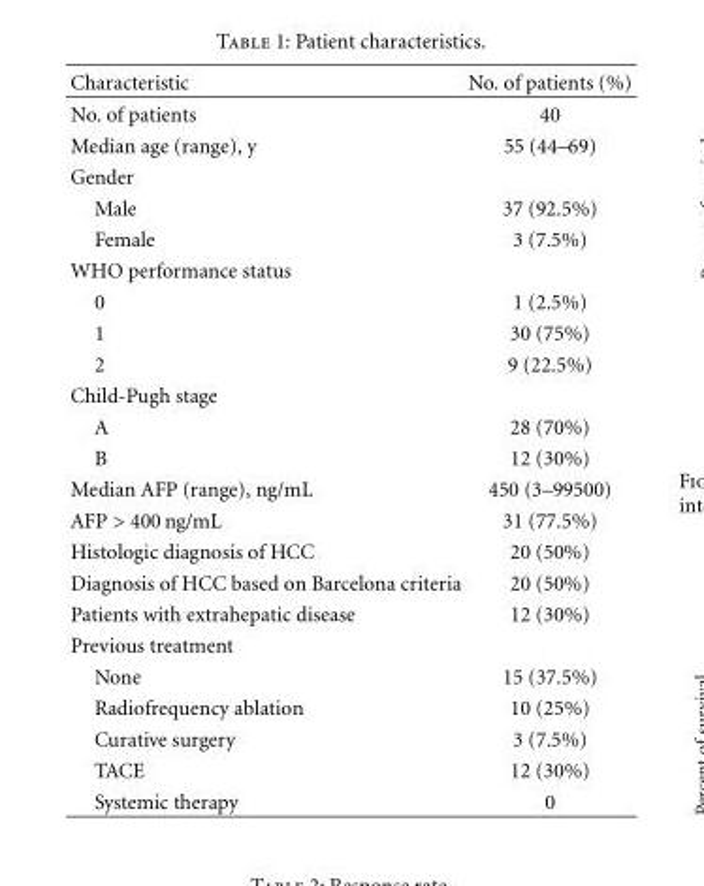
<table><thead><tr><td>Characteristic</td><td>No. of patients (%)</td></tr></thead><tbody><tr><td>No. of patients</td><td>40</td></tr><tr><td>Median age (range), y</td><td>55 (44–69)</td></tr><tr><td colspan="2">Gender</td></tr><tr><td>Male</td><td>37 (92.5%)</td></tr><tr><td>Female</td><td>3 (7.5%)</td></tr><tr><td colspan="2">WHO performance status</td></tr><tr><td>0</td><td>1 (2.5%)</td></tr><tr><td>1</td><td>30 (75%)</td></tr><tr><td>2</td><td>9 (22.5%)</td></tr><tr><td colspan="2">Child-Pugh stage</td></tr><tr><td>A</td><td>28 (70%)</td></tr><tr><td>B</td><td>12 (30%)</td></tr><tr><td>Median AFP (range), ng/mL</td><td>450 (3–99500)</td></tr><tr><td>AFP &gt; 400 ng/mL</td><td>31 (77.5%)</td></tr><tr><td>Histologic diagnosis of HCC</td><td>20 (50%)</td></tr><tr><td>Diagnosis of HCC based on Barcelona criteria</td><td>20 (50%)</td></tr><tr><td>Patients with extrahepatic disease</td><td>12 (30%)</td></tr><tr><td colspan="2">Previous treatment</td></tr><tr><td>None</td><td>15 (37.5%)</td></tr><tr><td>Radiofrequency ablation</td><td>10 (25%)</td></tr><tr><td>Curative surgery</td><td>3 (7.5%)</td></tr><tr><td>TACE</td><td>12 (30%)</td></tr><tr><td>Systemic therapy</td><td>0</td></tr></tbody></table>